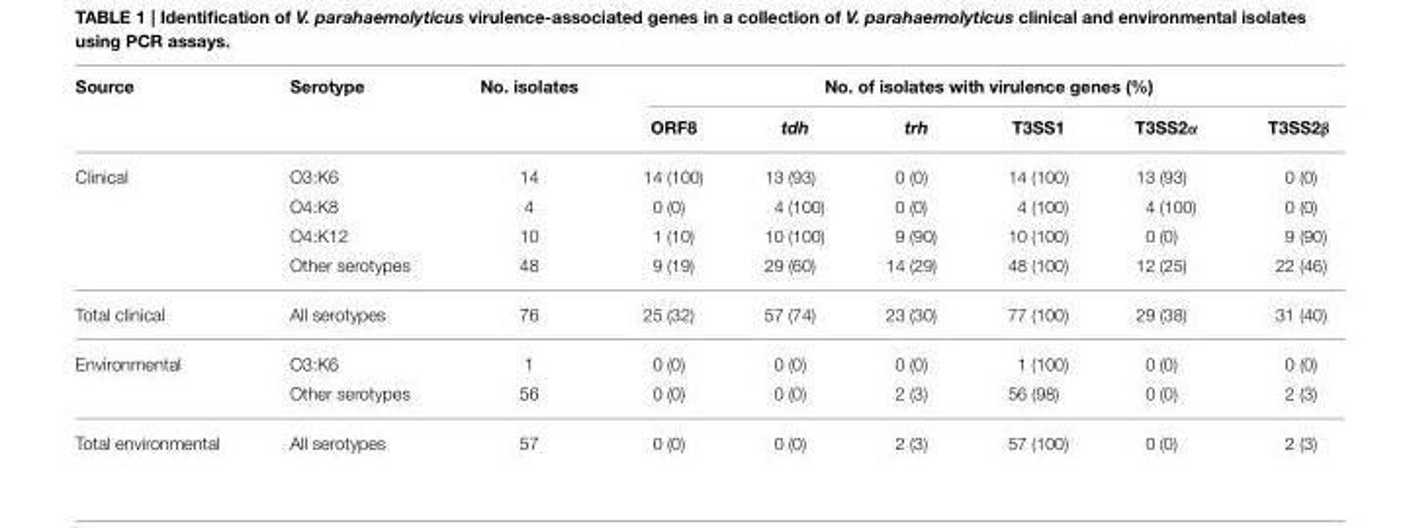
<table><thead><tr><td rowspan="2">Source</td><td rowspan="2">Serotype</td><td rowspan="2">No. isolates</td><td colspan="6">No. of isolates with virulence genes (%)</td></tr><tr><td>ORF8</td><td>tdh</td><td>trh</td><td>T3SS1</td><td>T3SS2α</td><td>T3SS2β</td></tr></thead><tbody><tr><td rowspan="4">Clinical</td><td>O3:K6</td><td>14</td><td>14 (100)</td><td>13 (93)</td><td>0 (0)</td><td>14 (100)</td><td>13 (93)</td><td>0 (0)</td></tr><tr><td>O4:K8</td><td>4</td><td>0 (0)</td><td>4 (100)</td><td>0 (0)</td><td>4 (100)</td><td>4 (100)</td><td>0 (0)</td></tr><tr><td>O4:K12</td><td>10</td><td>1 (10)</td><td>10 (100)</td><td>9 (90)</td><td>10 (100)</td><td>0 (0)</td><td>9 (90)</td></tr><tr><td>Other serotypes</td><td>48</td><td>9 (19)</td><td>29 (60)</td><td>14 (29)</td><td>48 (100)</td><td>12 (25)</td><td>22 (46)</td></tr><tr><td>Total clinical</td><td>All serotypes</td><td>76</td><td>25 (32)</td><td>57 (74)</td><td>23 (30)</td><td>77 (100)</td><td>29 (38)</td><td>31 (40)</td></tr><tr><td rowspan="2">Environmental</td><td>O3:K6</td><td>1</td><td>0 (0)</td><td>0 (0)</td><td>0 (0)</td><td>1 (100)</td><td>0 (0)</td><td>0 (0)</td></tr><tr><td>Other serotypes</td><td>56</td><td>0 (0)</td><td>0 (0)</td><td>2 (3)</td><td>56 (98)</td><td>0 (0)</td><td>2 (3)</td></tr><tr><td>Total environmental</td><td>All serotypes</td><td>57</td><td>0 (0)</td><td>0 (0)</td><td>2 (3)</td><td>57 (100)</td><td>0 (0)</td><td>2 (3)</td></tr></tbody></table>